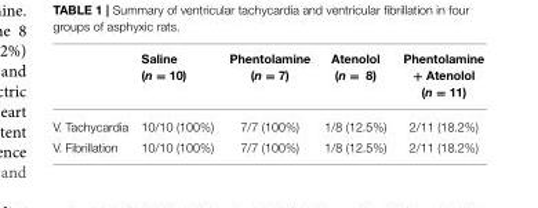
<table><thead><tr><td></td><td>Saline (n = 10)</td><td>Phentolamine (n = 7)</td><td>Atenolol (n = 8)</td><td>Phentolamine + Atenolol (n = 11)</td></tr></thead><tbody><tr><td>V. Tachycardia</td><td>10/10 (100%)</td><td>7/7 (100%)</td><td>1/8 (12.5%)</td><td>2/11 (18.2%)</td></tr><tr><td>V. Fibrillation</td><td>10/10 (100%)</td><td>7/7 (100%)</td><td>1/8 (12.5%)</td><td>2/11 (18.2%)</td></tr></tbody></table>